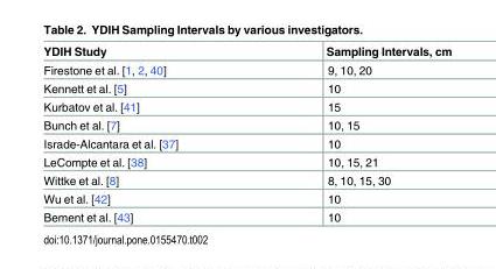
<table><thead><tr><td>YDIH Study</td><td>Sampling Intervals, cm</td></tr></thead><tbody><tr><td>Firestone et al. [1, 2, 40]</td><td>9, 10, 20</td></tr><tr><td>Kennett et al. [5]</td><td>10</td></tr><tr><td>Kurbatov et al. [41]</td><td>15</td></tr><tr><td>Bunch et al. [7]</td><td>10, 15</td></tr><tr><td>Israde-Alcantara et al. [37]</td><td>10</td></tr><tr><td>LeCompte et al. [38]</td><td>10, 15, 21</td></tr><tr><td>Wittke et al. [8]</td><td>8, 10, 15, 30</td></tr><tr><td>Wu et al. [42]</td><td>10</td></tr><tr><td>Bement et al. [43]</td><td>10</td></tr></tbody></table>